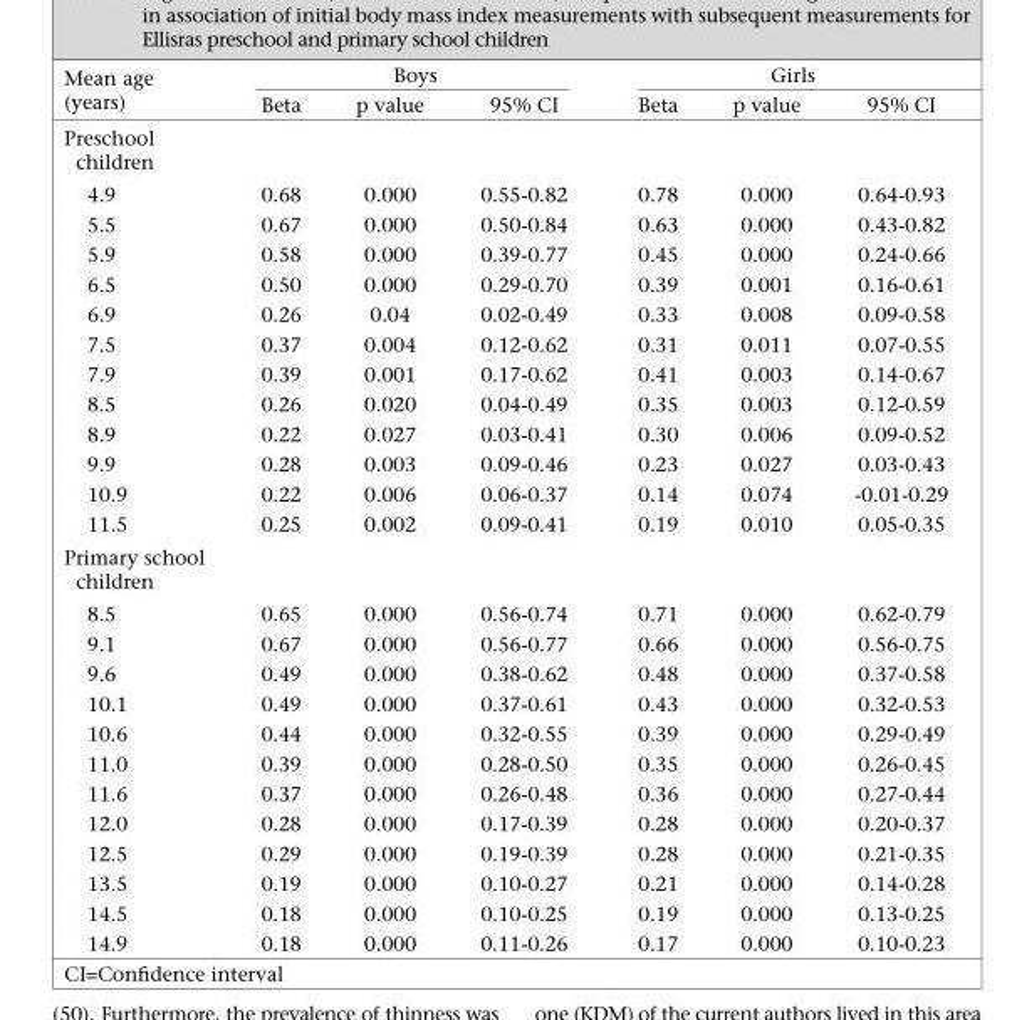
<table><thead><tr><td rowspan="2">Mean age (years)</td><td colspan="3">Boys</td><td colspan="3">Girls</td></tr><tr><td>Beta</td><td>p value</td><td>95% CI</td><td>Beta</td><td>p value</td><td>95% CI</td></tr></thead><tbody><tr><td colspan="7">Preschool children</td></tr><tr><td>4.9</td><td>0.68</td><td>0.000</td><td>0.55-0.82</td><td>0.78</td><td>0.000</td><td>0.64-0.93</td></tr><tr><td>5.5</td><td>0.67</td><td>0.000</td><td>0.50-0.84</td><td>0.63</td><td>0.000</td><td>0.43-0.82</td></tr><tr><td>5.9</td><td>0.58</td><td>0.000</td><td>0.39-0.77</td><td>0.45</td><td>0.000</td><td>0.24-0.66</td></tr><tr><td>6.5</td><td>0.50</td><td>0.000</td><td>0.29-0.70</td><td>0.39</td><td>0.001</td><td>0.16-0.61</td></tr><tr><td>6.9</td><td>0.26</td><td>0.04</td><td>0.02-0.49</td><td>0.33</td><td>0.008</td><td>0.09-0.58</td></tr><tr><td>7.5</td><td>0.37</td><td>0.004</td><td>0.12-0.62</td><td>0.31</td><td>0.011</td><td>0.07-0.55</td></tr><tr><td>7.9</td><td>0.39</td><td>0.001</td><td>0.17-0.62</td><td>0.41</td><td>0.003</td><td>0.14-0.67</td></tr><tr><td>8.5</td><td>0.26</td><td>0.020</td><td>0.04-0.49</td><td>0.35</td><td>0.003</td><td>0.12-0.59</td></tr><tr><td>8.9</td><td>0.22</td><td>0.027</td><td>0.03-0.41</td><td>0.30</td><td>0.006</td><td>0.09-0.52</td></tr><tr><td>9.9</td><td>0.28</td><td>0.003</td><td>0.09-0.46</td><td>0.23</td><td>0.027</td><td>0.03-0.43</td></tr><tr><td>10.9</td><td>0.22</td><td>0.006</td><td>0.06-0.37</td><td>0.14</td><td>0.074</td><td>-0.01-0.29</td></tr><tr><td>11.5</td><td>0.25</td><td>0.002</td><td>0.09-0.41</td><td>0.19</td><td>0.010</td><td>0.05-0.35</td></tr><tr><td colspan="7">Primary school children</td></tr><tr><td>8.5</td><td>0.65</td><td>0.000</td><td>0.56-0.74</td><td>0.71</td><td>0.000</td><td>0.62-0.79</td></tr><tr><td>9.1</td><td>0.67</td><td>0.000</td><td>0.56-0.77</td><td>0.66</td><td>0.000</td><td>0.56-0.75</td></tr><tr><td>9.6</td><td>0.49</td><td>0.000</td><td>0.38-0.62</td><td>0.48</td><td>0.000</td><td>0.37-0.58</td></tr><tr><td>10.1</td><td>0.49</td><td>0.000</td><td>0.37-0.61</td><td>0.43</td><td>0.000</td><td>0.32-0.53</td></tr><tr><td>10.6</td><td>0.44</td><td>0.000</td><td>0.32-0.55</td><td>0.39</td><td>0.000</td><td>0.29-0.49</td></tr><tr><td>11.0</td><td>0.39</td><td>0.000</td><td>0.28-0.50</td><td>0.35</td><td>0.000</td><td>0.26-0.45</td></tr><tr><td>11.6</td><td>0.37</td><td>0.000</td><td>0.26-0.48</td><td>0.36</td><td>0.000</td><td>0.27-0.44</td></tr><tr><td>12.0</td><td>0.28</td><td>0.000</td><td>0.17-0.39</td><td>0.28</td><td>0.000</td><td>0.20-0.37</td></tr><tr><td>12.5</td><td>0.29</td><td>0.000</td><td>0.19-0.39</td><td>0.28</td><td>0.000</td><td>0.21-0.35</td></tr><tr><td>13.5</td><td>0.19</td><td>0.000</td><td>0.10-0.27</td><td>0.21</td><td>0.000</td><td>0.14-0.28</td></tr><tr><td>14.5</td><td>0.18</td><td>0.000</td><td>0.10-0.25</td><td>0.19</td><td>0.000</td><td>0.13-0.25</td></tr><tr><td>14.9</td><td>0.18</td><td>0.000</td><td>0.11-0.26</td><td>0.17</td><td>0.000</td><td>0.10-0.23</td></tr></tbody></table>